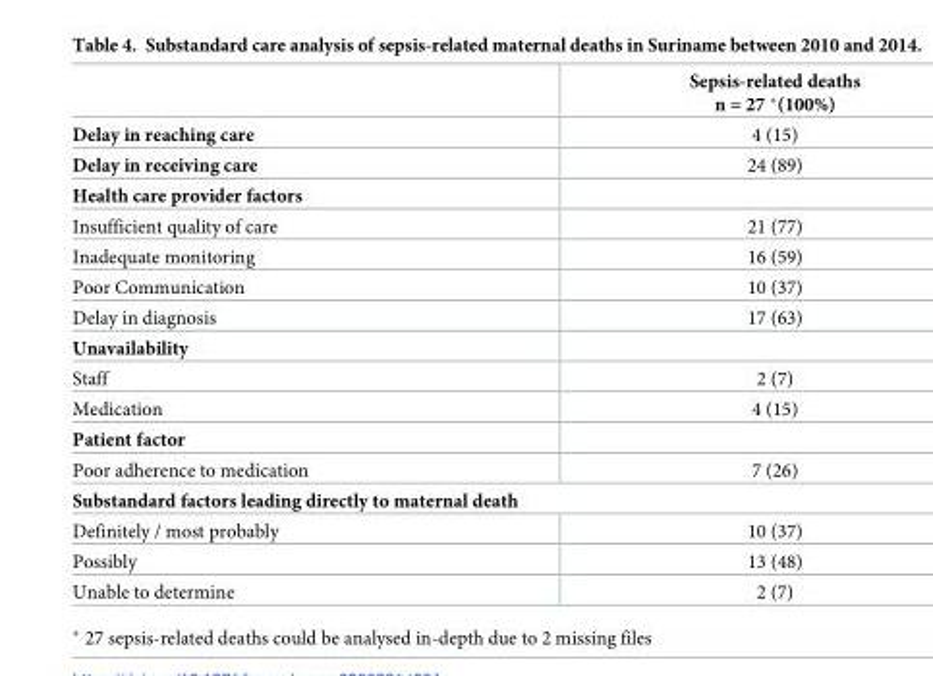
<table><thead><tr><td></td><td>Sepsis-related deaths n = 27 *(100%)</td></tr></thead><tbody><tr><td>Delay in reaching care</td><td>4 (15)</td></tr><tr><td>Delay in receiving care</td><td>24 (89)</td></tr><tr><td colspan="2">Health care provider factors</td></tr><tr><td>Insufficient quality of care</td><td>21 (77)</td></tr><tr><td>Inadequate monitoring</td><td>16 (59)</td></tr><tr><td>Poor Communication</td><td>10 (37)</td></tr><tr><td>Delay in diagnosis</td><td>17 (63)</td></tr><tr><td colspan="2">Unavailability</td></tr><tr><td>Staff</td><td>2 (7)</td></tr><tr><td>Medication</td><td>4 (15)</td></tr><tr><td colspan="2">Patient factor</td></tr><tr><td>Poor adherence to medication</td><td>7 (26)</td></tr><tr><td colspan="2">Substandard factors leading directly to maternal death</td></tr><tr><td>Definitely / most probably</td><td>10 (37)</td></tr><tr><td>Possibly</td><td>13 (48)</td></tr><tr><td>Unable to determine</td><td>2 (7)</td></tr></tbody></table>